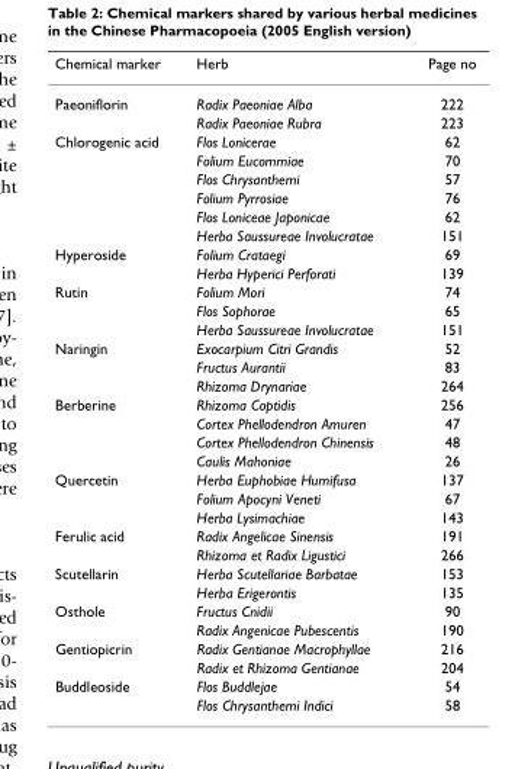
<table><thead><tr><td>Chemical marker</td><td>Herb</td><td>Page no</td></tr></thead><tbody><tr><td rowspan="2">Paeoniflorin</td><td>Radix Paeoniae Alba</td><td>222</td></tr><tr><td>Radix Paeoniae Rubra</td><td>223</td></tr><tr><td rowspan="6">Chlorogenic acid</td><td>Flos Lonicerae</td><td>62</td></tr><tr><td>Folium Eucommiae</td><td>70</td></tr><tr><td>Flos Chrysanthemi</td><td>57</td></tr><tr><td>Folium Pyrrosiae</td><td>76</td></tr><tr><td>Flos Loniceae Japonicae</td><td>62</td></tr><tr><td>Herba Saussureae Involucratae</td><td>151</td></tr><tr><td rowspan="2">Hyperoside</td><td>Folium Crataegi</td><td>69</td></tr><tr><td>Herba Hyperici Perforati</td><td>139</td></tr><tr><td rowspan="3">Rutin</td><td>Folium Mori</td><td>74</td></tr><tr><td>Flos Sophorae</td><td>65</td></tr><tr><td>Herba Saussureae Involucratae</td><td>151</td></tr><tr><td rowspan="3">Naringin</td><td>Exocarpium Citri Grandis</td><td>52</td></tr><tr><td>Fructus Aurantii</td><td>83</td></tr><tr><td>Rhizoma Drynariae</td><td>264</td></tr><tr><td rowspan="4">Berberine</td><td>Rhizoma Coptidis</td><td>256</td></tr><tr><td>Cortex Phellodendron Amuren</td><td>47</td></tr><tr><td>Cortex Phellodendron Chinensis</td><td>48</td></tr><tr><td>Caulis Mahoniae</td><td>26</td></tr><tr><td rowspan="3">Quercetin</td><td>Herba Euphobiae Humifusa</td><td>137</td></tr><tr><td>Folium Apocyni Veneti</td><td>67</td></tr><tr><td>Herba Lysimachiae</td><td>143</td></tr><tr><td rowspan="2">Ferulic acid</td><td>Radix Angelicae Sinensis</td><td>191</td></tr><tr><td>Rhizoma et Radix Ligustici</td><td>266</td></tr><tr><td rowspan="2">Scutellarin</td><td>Herba Scutellariae Barbatae</td><td>153</td></tr><tr><td>Herba Erigerontis</td><td>135</td></tr><tr><td rowspan="2">Osthole</td><td>Fructus Cnidii</td><td>90</td></tr><tr><td>Radix Angenicae Pubescentis</td><td>190</td></tr><tr><td rowspan="2">Gentiopicrin</td><td>Radix Gentianae Macrophyllae</td><td>216</td></tr><tr><td>Radix et Rhizoma Gentianae</td><td>204</td></tr><tr><td rowspan="2">Buddleoside</td><td>Flos Buddlejae</td><td>54</td></tr><tr><td>Flos Chrysanthemi Indici</td><td>58</td></tr></tbody></table>